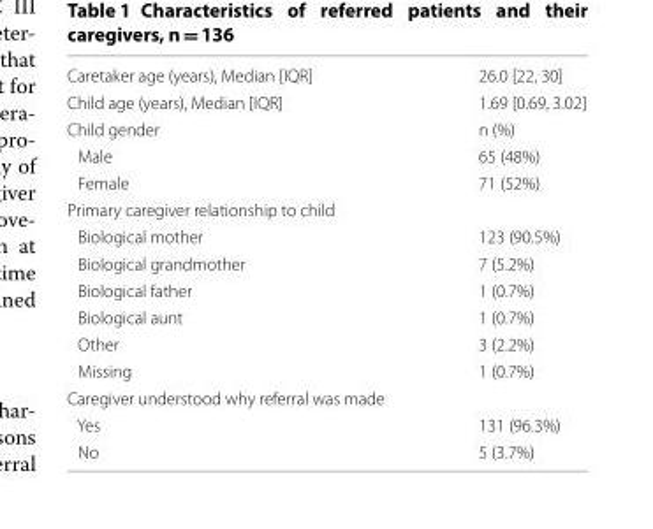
<table><tbody><tr><td>Caretaker age (years), Median [IQR]</td><td>26.0 [22, 30]</td></tr><tr><td>Child age (years), Median [IQR]</td><td>1.69 [0.69, 3.02]</td></tr><tr><td>Child gender</td><td>n (%)</td></tr><tr><td>Male</td><td>65 (48%)</td></tr><tr><td>Female</td><td>71 (52%)</td></tr><tr><td colspan="2">Primary caregiver relationship to child</td></tr><tr><td>Biological mother</td><td>123 (90.5%)</td></tr><tr><td>Biological grandmother</td><td>7 (5.2%)</td></tr><tr><td>Biological father</td><td>1 (0.7%)</td></tr><tr><td>Biological aunt</td><td>1 (0.7%)</td></tr><tr><td>Other</td><td>3 (2.2%)</td></tr><tr><td>Missing</td><td>1 (0.7%)</td></tr><tr><td colspan="2">Caregiver understood why referral was made</td></tr><tr><td>Yes</td><td>131 (96.3%)</td></tr><tr><td>No</td><td>5 (3.7%)</td></tr></tbody></table>